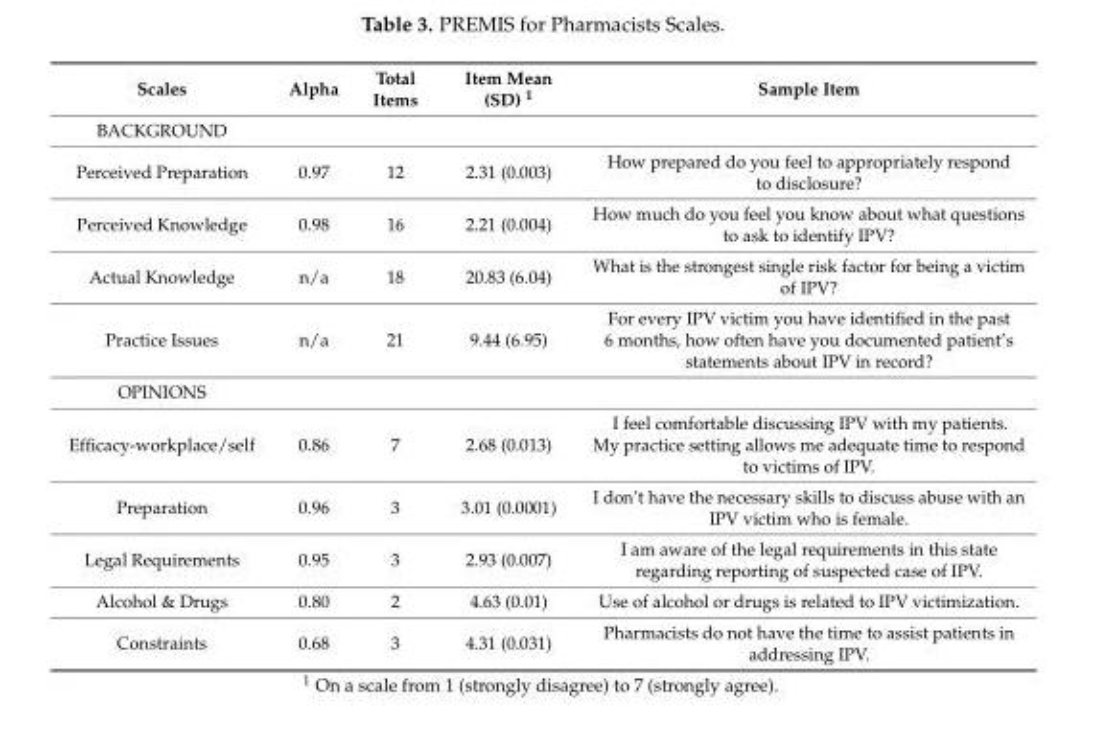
<table><thead><tr><td>Scales</td><td>Alpha</td><td>Total Items</td><td>Item Mean (SD) <sup>1</sup></td><td>Sample Item</td></tr></thead><tbody><tr><td colspan="5">BACKGROUND</td></tr><tr><td>Perceived Preparation</td><td>0.97</td><td>12</td><td>2.31 (0.003)</td><td>How prepared do you feel to appropriately respond to disclosure?</td></tr><tr><td>Perceived Knowledge</td><td>0.98</td><td>16</td><td>2.21 (0.004)</td><td>How much do you feel you know about what questions to ask to identify IPV?</td></tr><tr><td>Actual Knowledge</td><td>n/a</td><td>18</td><td>20.83 (6.04)</td><td>What is the strongest single risk factor for being a victim of IPV?</td></tr><tr><td>Practice Issues</td><td>n/a</td><td>21</td><td>9.44 (6.95)</td><td>For every IPV victim you have identified in the past 6 months, how often have you documented patient’s statements about IPV in record?</td></tr><tr><td colspan="5">OPINIONS</td></tr><tr><td>Efficacy-workplace/self</td><td>0.86</td><td>7</td><td>2.68 (0.013)</td><td>I feel comfortable discussing IPV with my patients. My practice setting allows me adequate time to respond to victims of IPV.</td></tr><tr><td>Preparation</td><td>0.96</td><td>3</td><td>3.01 (0.0001)</td><td>I don’t have the necessary skills to discuss abuse with an IPV victim who is female.</td></tr><tr><td>Legal Requirements</td><td>0.95</td><td>3</td><td>2.93 (0.007)</td><td>I am aware of the legal requirements in this state regarding reporting of suspected case of IPV.</td></tr><tr><td>Alcohol &amp; Drugs</td><td>0.80</td><td>2</td><td>4.63 (0.01)</td><td>Use of alcohol or drugs is related to IPV victimization.</td></tr><tr><td>Constraints</td><td>0.68</td><td>3</td><td>4.31 (0.031)</td><td>Pharmacists do not have the time to assist patients in addressing IPV.</td></tr></tbody></table>